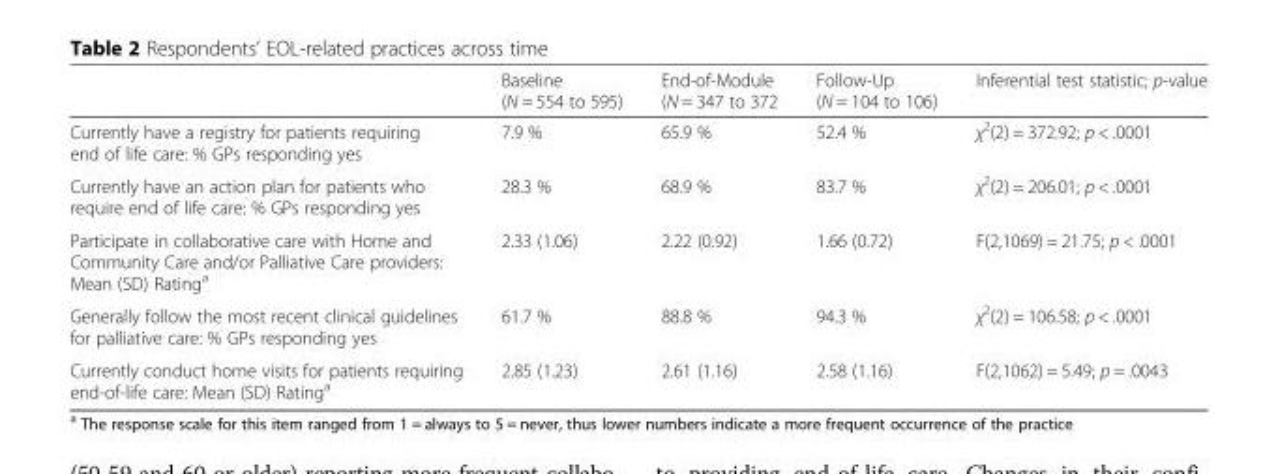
<table><thead><tr><td></td><td>Baseline (N = 554 to 595)</td><td>End-of-Module (N = 347 to 372</td><td>Follow-Up (N = 104 to 106)</td><td>Inferential test statistic; p-value</td></tr></thead><tbody><tr><td>Currently have a registry for patients requiring end of life care: % GPs responding yes</td><td>7.9 %</td><td>65.9 %</td><td>52.4 %</td><td>χ<sup>2</sup>(2) = 372.92; p &lt; .0001</td></tr><tr><td>Currently have an action plan for patients who require end of life care: % GPs responding yes</td><td>28.3 %</td><td>68.9 %</td><td>83.7 %</td><td>χ<sup>2</sup>(2) = 206.01; p &lt; .0001</td></tr><tr><td>Participate in collaborative care with Home and Community Care and/or Palliative Care providers: Mean (SD) Rating<sup>a</sup></td><td>2.33 (1.06)</td><td>2.22 (0.92)</td><td>1.66 (0.72)</td><td>F(2,1069) = 21.75; p &lt; .0001</td></tr><tr><td>Generally follow the most recent clinical guidelines for palliative care: % GPs responding yes</td><td>61.7 %</td><td>88.8 %</td><td>94.3 %</td><td>χ<sup>2</sup>(2) = 106.58; p &lt; .0001</td></tr><tr><td>Currently conduct home visits for patients requiring end-of-life care: Mean (SD) Rating<sup>a</sup></td><td>2.85 (1.23)</td><td>2.61 (1.16)</td><td>2.58 (1.16)</td><td>F(2,1062) = 5.49; p = .0043</td></tr></tbody></table>